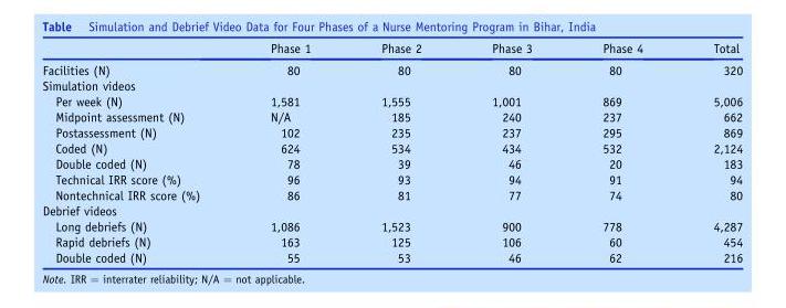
<table><thead><tr><td></td><td>Phase 1</td><td>Phase 2</td><td>Phase 3</td><td>Phase 4</td><td>Total</td></tr></thead><tbody><tr><td>Facilities (N)</td><td>80</td><td>80</td><td>80</td><td>80</td><td>320</td></tr><tr><td colspan="6">Simulation videos</td></tr><tr><td>Per week (N)</td><td>1,581</td><td>1,555</td><td>1,001</td><td>869</td><td>5,006</td></tr><tr><td>Midpoint assessment (N)</td><td>N/A</td><td>185</td><td>240</td><td>237</td><td>662</td></tr><tr><td>Postassessment (N)</td><td>102</td><td>235</td><td>237</td><td>295</td><td>869</td></tr><tr><td>Coded (N)</td><td>624</td><td>534</td><td>434</td><td>532</td><td>2,124</td></tr><tr><td>Double coded (N)</td><td>78</td><td>39</td><td>46</td><td>20</td><td>183</td></tr><tr><td>Technical IRR score (%)</td><td>96</td><td>93</td><td>94</td><td>91</td><td>94</td></tr><tr><td>Nontechnical IRR score (%)</td><td>86</td><td>81</td><td>77</td><td>74</td><td>80</td></tr><tr><td colspan="6">Debrief videos</td></tr><tr><td>Long debriefs (N)</td><td>1,086</td><td>1,523</td><td>900</td><td>778</td><td>4,287</td></tr><tr><td>Rapid debriefs (N)</td><td>163</td><td>125</td><td>106</td><td>60</td><td>454</td></tr><tr><td>Double coded (N)</td><td>55</td><td>53</td><td>46</td><td>62</td><td>216</td></tr></tbody></table>